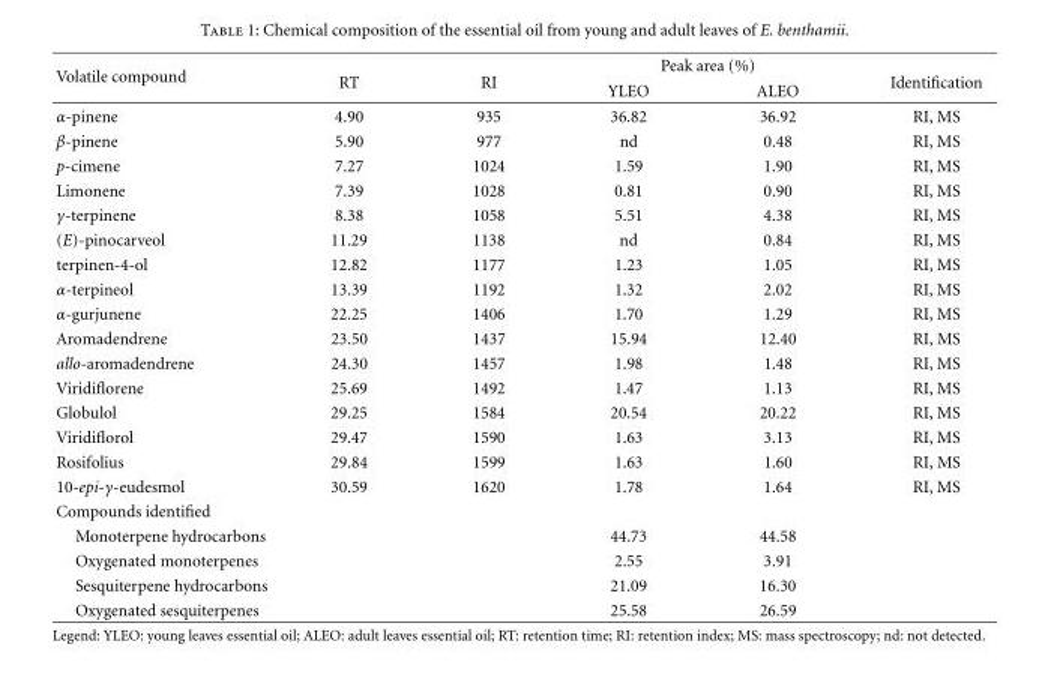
<table><thead><tr><td rowspan="2">Volatile compound</td><td rowspan="2">RT</td><td rowspan="2">RI</td><td colspan="2">Peak area (%)</td><td rowspan="2">Identification</td></tr><tr><td>YLEO</td><td>ALEO</td></tr></thead><tbody><tr><td>α-pinene</td><td>4.90</td><td>935</td><td>36.82</td><td>36.92</td><td>RI, MS</td></tr><tr><td>β-pinene</td><td>5.90</td><td>977</td><td>nd</td><td>0.48</td><td>RI, MS</td></tr><tr><td>p-cimene</td><td>7.27</td><td>1024</td><td>1.59</td><td>1.90</td><td>RI, MS</td></tr><tr><td>Limonene</td><td>7.39</td><td>1028</td><td>0.81</td><td>0.90</td><td>RI, MS</td></tr><tr><td>γ-terpinene</td><td>8.38</td><td>1058</td><td>5.51</td><td>4.38</td><td>RI, MS</td></tr><tr><td>(E)-pinocarveol</td><td>11.29</td><td>1138</td><td>nd</td><td>0.84</td><td>RI, MS</td></tr><tr><td>terpinen-4-ol</td><td>12.82</td><td>1177</td><td>1.23</td><td>1.05</td><td>RI, MS</td></tr><tr><td>α-terpineol</td><td>13.39</td><td>1192</td><td>1.32</td><td>2.02</td><td>RI, MS</td></tr><tr><td>α-gurjunene</td><td>22.25</td><td>1406</td><td>1.70</td><td>1.29</td><td>RI, MS</td></tr><tr><td>Aromadendrene</td><td>23.50</td><td>1437</td><td>15.94</td><td>12.40</td><td>RI, MS</td></tr><tr><td>allo-aromadendrene</td><td>24.30</td><td>1457</td><td>1.98</td><td>1.48</td><td>RI, MS</td></tr><tr><td>Viridiflorene</td><td>25.69</td><td>1492</td><td>1.47</td><td>1.13</td><td>RI, MS</td></tr><tr><td>Globulol</td><td>29.25</td><td>1584</td><td>20.54</td><td>20.22</td><td>RI, MS</td></tr><tr><td>Viridiflorol</td><td>29.47</td><td>1590</td><td>1.63</td><td>3.13</td><td>RI, MS</td></tr><tr><td>Rosifolius</td><td>29.84</td><td>1599</td><td>1.63</td><td>1.60</td><td>RI, MS</td></tr><tr><td>10-epi-γ-eudesmol</td><td>30.59</td><td>1620</td><td>1.78</td><td>1.64</td><td>RI, MS</td></tr><tr><td colspan="6">Compounds identified</td></tr><tr><td>Monoterpene hydrocarbons</td><td></td><td></td><td>44.73</td><td>44.58</td><td></td></tr><tr><td>Oxygenated monoterpenes</td><td></td><td></td><td>2.55</td><td>3.91</td><td></td></tr><tr><td>Sesquiterpene hydrocarbons</td><td></td><td></td><td>21.09</td><td>16.30</td><td></td></tr><tr><td>Oxygenated sesquiterpenes</td><td></td><td></td><td>25.58</td><td>26.59</td><td></td></tr></tbody></table>